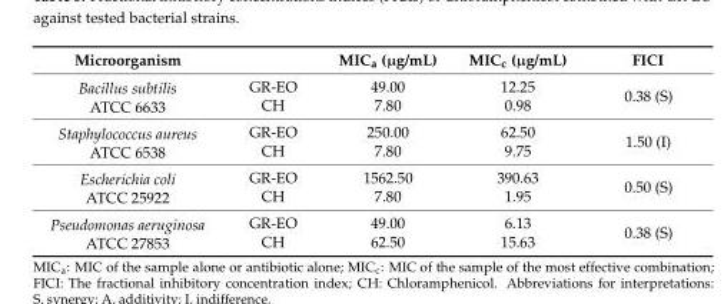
<table><thead><tr><td>Microorganism</td><td></td><td>MIC<sub>a</sub> (µg/mL)</td><td>MIC<sub>c</sub> (µg/mL)</td><td>FICI</td></tr></thead><tbody><tr><td rowspan="2">Bacillus subtilis ATCC 6633</td><td>GR-EO</td><td>49.00</td><td>12.25</td><td rowspan="2">0.38 (S)</td></tr><tr><td>CH</td><td>7.80</td><td>0.98</td></tr><tr><td rowspan="2">Staphylococcus aureus ATCC 6538</td><td>GR-EO</td><td>250.00</td><td>62.50</td><td rowspan="2">1.50 (I)</td></tr><tr><td>CH</td><td>7.80</td><td>9.75</td></tr><tr><td rowspan="2">Escherichia coli ATCC 25922</td><td>GR-EO</td><td>1562.50</td><td>390.63</td><td rowspan="2">0.50 (S)</td></tr><tr><td>CH</td><td>7.80</td><td>1.95</td></tr><tr><td rowspan="2">Pseudomonas aeruginosa ATCC 27853</td><td>GR-EO</td><td>49.00</td><td>6.13</td><td rowspan="2">0.38 (S)</td></tr><tr><td>CH</td><td>62.50</td><td>15.63</td></tr></tbody></table>